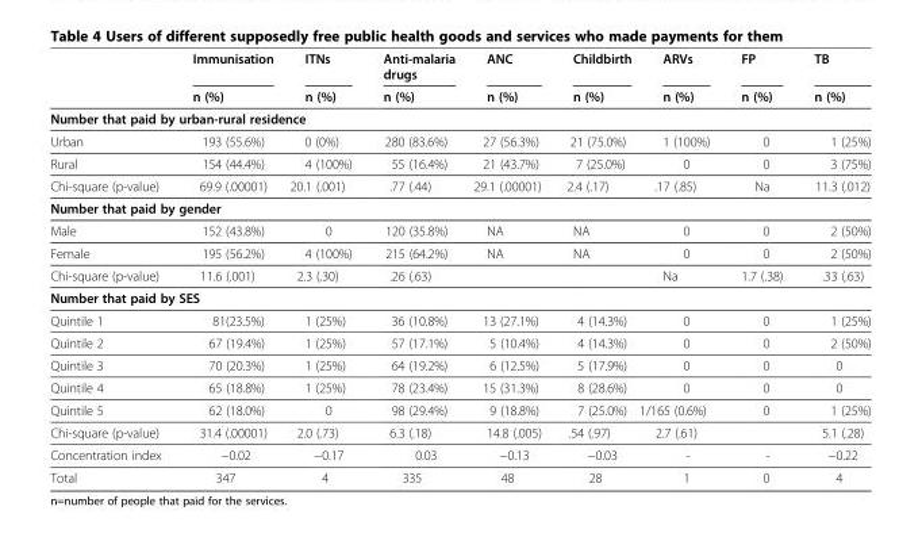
<table><thead><tr><td rowspan="2"></td><td rowspan="2">Immunisation n (%)</td><td rowspan="2">ITNs n (%)</td><td rowspan="2">Anti-malaria drugs n (%)</td><td rowspan="2">ANC n (%)</td><td rowspan="2">Childbirth n (%)</td><td rowspan="2">ARVs n (%)</td><td rowspan="2">FP n (%)</td><td rowspan="2">TB n (%)</td></tr><tr></tr></thead><tbody><tr><td colspan="9">Number that paid by urban-rural residence</td></tr><tr><td>Urban</td><td>193 (55.6%)</td><td>0 (0%)</td><td>280 (83.6%)</td><td>27 (56.3%)</td><td>21 (75.0%)</td><td>1 (100%)</td><td>0</td><td>1 (25%)</td></tr><tr><td>Rural</td><td>154 (44.4%)</td><td>4 (100%)</td><td>55 (16.4%)</td><td>21 (43.7%)</td><td>7 (25.0%)</td><td>0</td><td>0</td><td>3 (75%)</td></tr><tr><td>Chi-square (p-value)</td><td>69.9 (.00001)</td><td>20.1 (.001)</td><td>.77 (.44)</td><td>29.1 (.00001)</td><td>2.4 (.17)</td><td>.17 (.85)</td><td>Na</td><td>11.3 (.012)</td></tr><tr><td colspan="9">Number that paid by gender</td></tr><tr><td>Male</td><td>152 (43.8%)</td><td>0</td><td>120 (35.8%)</td><td>NA</td><td>NA</td><td>0</td><td>0</td><td>2 (50%)</td></tr><tr><td>Female</td><td>195 (56.2%)</td><td>4 (100%)</td><td>215 (64.2%)</td><td>NA</td><td>NA</td><td>0</td><td>0</td><td>2 (50%)</td></tr><tr><td>Chi-square (p-value)</td><td>11.6 (.001)</td><td>2.3 (.30)</td><td>.26 (.63)</td><td></td><td></td><td>Na</td><td>1.7 (.38)</td><td>.33 (.63)</td></tr><tr><td colspan="9">Number that paid by SES</td></tr><tr><td>Quintile 1</td><td>81(23.5%)</td><td>1 (25%)</td><td>36 (10.8%)</td><td>13 (27.1%)</td><td>4 (14.3%)</td><td>0</td><td>0</td><td>1 (25%)</td></tr><tr><td>Quintile 2</td><td>67 (19.4%)</td><td>1 (25%)</td><td>57 (17.1%)</td><td>5 (10.4%)</td><td>4 (14.3%)</td><td>0</td><td>0</td><td>2 (50%)</td></tr><tr><td>Quintile 3</td><td>70 (20.3%)</td><td>1 (25%)</td><td>64 (19.2%)</td><td>6 (12.5%)</td><td>5 (17.9%)</td><td>0</td><td>0</td><td>0</td></tr><tr><td>Quintile 4</td><td>65 (18.8%)</td><td>1 (25%)</td><td>78 (23.4%)</td><td>15 (31.3%)</td><td>8 (28.6%)</td><td>0</td><td>0</td><td>0</td></tr><tr><td>Quintile 5</td><td>62 (18.0%)</td><td>0</td><td>98 (29.4%)</td><td>9 (18.8%)</td><td>7 (25.0%)</td><td>1/165 (0.6%)</td><td>0</td><td>1 (25%)</td></tr><tr><td>Chi-square (p-value)</td><td>31.4 (.00001)</td><td>2.0 (.73)</td><td>6.3 (.18)</td><td>14.8 (.005)</td><td>.54 (.97)</td><td>2.7 (.61)</td><td></td><td>5.1 (.28)</td></tr><tr><td>Concentration index</td><td>−0.02</td><td>−0.17</td><td>0.03</td><td>−0.13</td><td>−0.03</td><td>-</td><td>-</td><td>−0.22</td></tr><tr><td>Total</td><td>347</td><td>4</td><td>335</td><td>48</td><td>28</td><td>1</td><td>0</td><td>4</td></tr></tbody></table>